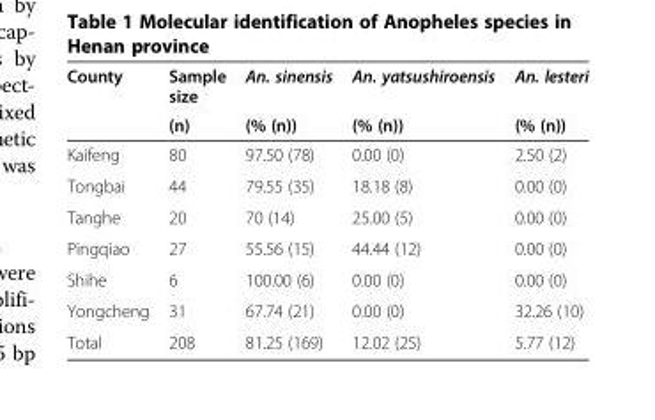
<table><thead><tr><td rowspan="2">County</td><td rowspan="2">Sample size (n)</td><td rowspan="2">An. sinensis (% (n))</td><td rowspan="2">An. yatsushiroensis (% (n))</td><td rowspan="2">An. lesteri (% (n))</td></tr><tr></tr></thead><tbody><tr><td>Kaifeng</td><td>80</td><td>97.50 (78)</td><td>0.00 (0)</td><td>2.50 (2)</td></tr><tr><td>Tongbai</td><td>44</td><td>79.55 (35)</td><td>18.18 (8)</td><td>0.00 (0)</td></tr><tr><td>Tanghe</td><td>20</td><td>70 (14)</td><td>25.00 (5)</td><td>0.00 (0)</td></tr><tr><td>Pingqiao</td><td>27</td><td>55.56 (15)</td><td>44.44 (12)</td><td>0.00 (0)</td></tr><tr><td>Shihe</td><td>6</td><td>100.00 (6)</td><td>0.00 (0)</td><td>0.00 (0)</td></tr><tr><td>Yongcheng</td><td>31</td><td>67.74 (21)</td><td>0.00 (0)</td><td>32.26 (10)</td></tr><tr><td>Total</td><td>208</td><td>81.25 (169)</td><td>12.02 (25)</td><td>5.77 (12)</td></tr></tbody></table>